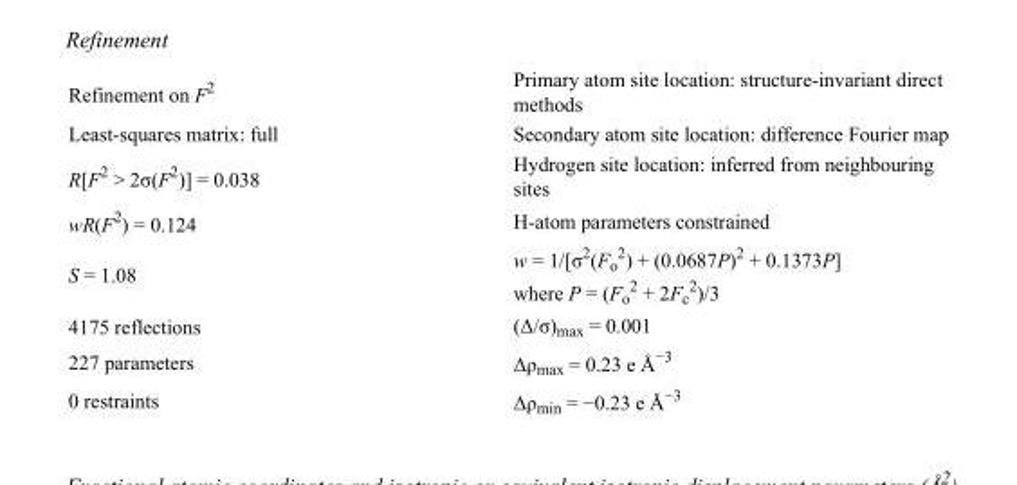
<table><tbody><tr><td>Refinement on F<sup>2</sup></td><td>Primary atom site location: structure-invariant direct methods</td></tr><tr><td>Least-squares matrix: full</td><td>Secondary atom site location: difference Fourier map</td></tr><tr><td>R[F<sup>2</sup> &gt; 2σ(F<sup>2</sup>)] = 0.038</td><td>Hydrogen site location: inferred from neighbouring sites</td></tr><tr><td>wR(F<sup>2</sup>) = 0.124</td><td>H-atom parameters constrained</td></tr><tr><td>S = 1.08</td><td>w = 1/[σ<sup>2</sup>(F<sub>o</sub> <sup>2</sup>) + (0.0687P)<sup>2</sup> + 0.1373P] where P = (F<sub>o</sub> <sup>2</sup> + 2F<sub>c</sub> <sup>2</sup>)/3</td></tr><tr><td>4175 reflections</td><td>(Δ/σ)<sub>max</sub> = 0.001</td></tr><tr><td>227 parameters</td><td>Δρ<sub>max</sub> = 0.23 e Å<sup>−3</sup></td></tr><tr><td>0 restraints</td><td>Δρ<sub>min</sub> = −0.23 e Å<sup>−3</sup></td></tr></tbody></table>